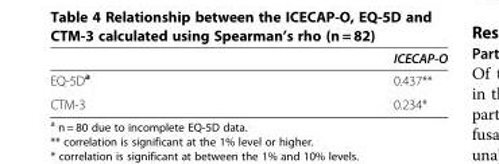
<table><thead><tr><td></td><td>ICECAP-O</td></tr></thead><tbody><tr><td>EQ-5D<sup>a</sup></td><td>0.437**</td></tr><tr><td>CTM-3</td><td>0.234*</td></tr></tbody></table>